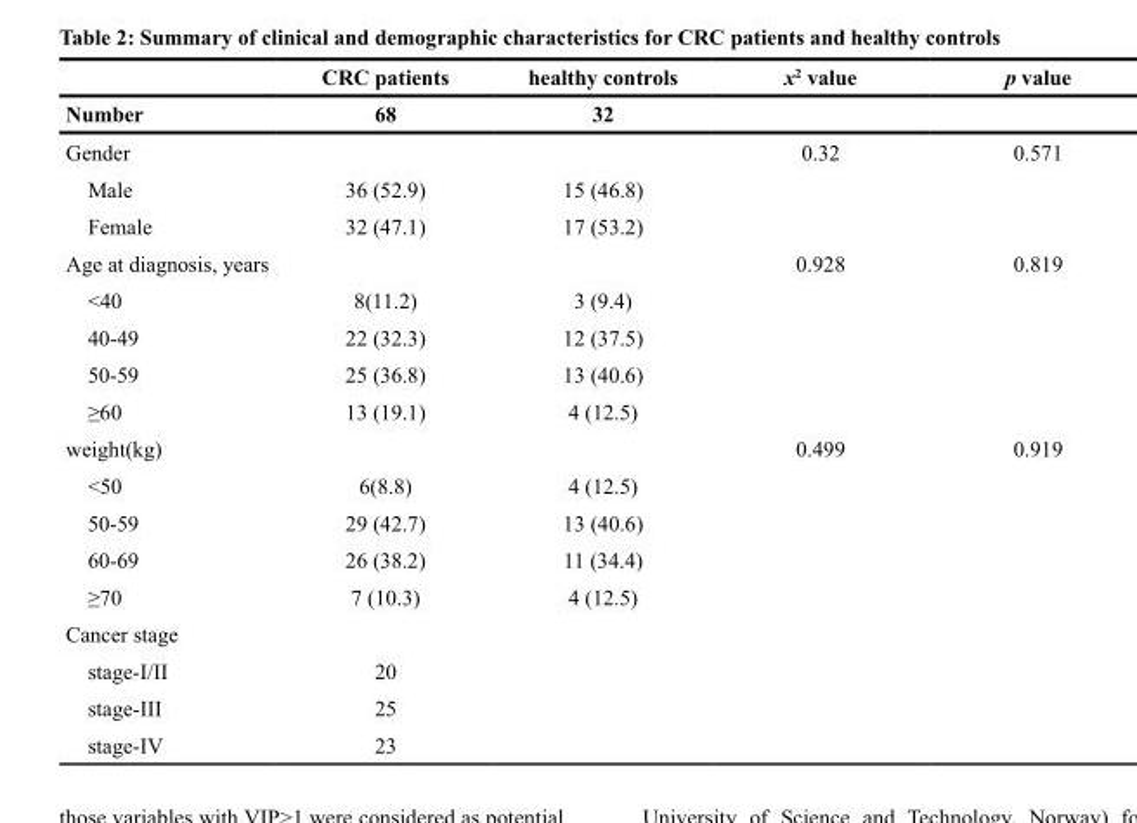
<table><thead><tr><td rowspan="2">Number</td><td rowspan="2">CRC patients 68</td><td rowspan="2">healthy controls 32</td><td rowspan="2">x<sup>2</sup> value</td><td rowspan="2">p value</td></tr><tr></tr></thead><tbody><tr><td>Gender</td><td></td><td></td><td>0.32</td><td>0.571</td></tr><tr><td>Male</td><td>36 (52.9)</td><td>15 (46.8)</td><td></td><td></td></tr><tr><td>Female</td><td>32 (47.1)</td><td>17 (53.2)</td><td></td><td></td></tr><tr><td>Age at diagnosis, years</td><td></td><td></td><td>0.928</td><td>0.819</td></tr><tr><td>&lt;40</td><td>8(11.2)</td><td>3 (9.4)</td><td></td><td></td></tr><tr><td>40-49</td><td>22 (32.3)</td><td>12 (37.5)</td><td></td><td></td></tr><tr><td>50-59</td><td>25 (36.8)</td><td>13 (40.6)</td><td></td><td></td></tr><tr><td>≥60</td><td>13 (19.1)</td><td>4 (12.5)</td><td></td><td></td></tr><tr><td>weight(kg)</td><td></td><td></td><td>0.499</td><td>0.919</td></tr><tr><td>&lt;50</td><td>6(8.8)</td><td>4 (12.5)</td><td></td><td></td></tr><tr><td>50-59</td><td>29 (42.7)</td><td>13 (40.6)</td><td></td><td></td></tr><tr><td>60-69</td><td>26 (38.2)</td><td>11 (34.4)</td><td></td><td></td></tr><tr><td>≥70</td><td>7 (10.3)</td><td>4 (12.5)</td><td></td><td></td></tr><tr><td colspan="5">Cancer stage</td></tr><tr><td>stage-I/II</td><td>20</td><td></td><td></td><td></td></tr><tr><td>stage-III</td><td>25</td><td></td><td></td><td></td></tr><tr><td>stage-IV</td><td>23</td><td></td><td></td><td></td></tr></tbody></table>